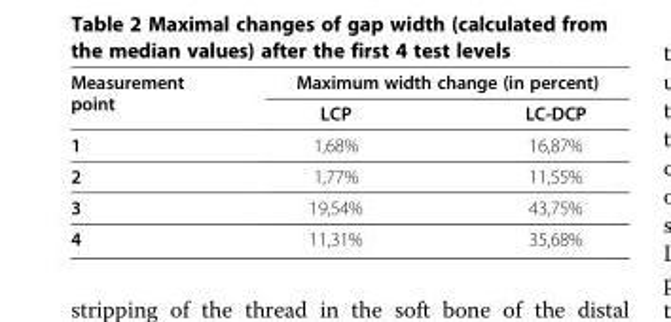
<table><thead><tr><td rowspan="2">Measurement point</td><td colspan="2">Maximum width change (in percent)</td></tr><tr><td>LCP</td><td>LC-DCP</td></tr></thead><tbody><tr><td>1</td><td>1,68%</td><td>16,87%</td></tr><tr><td>2</td><td>1,77%</td><td>11,55%</td></tr><tr><td>3</td><td>19,54%</td><td>43,75%</td></tr><tr><td>4</td><td>11,31%</td><td>35,68%</td></tr></tbody></table>